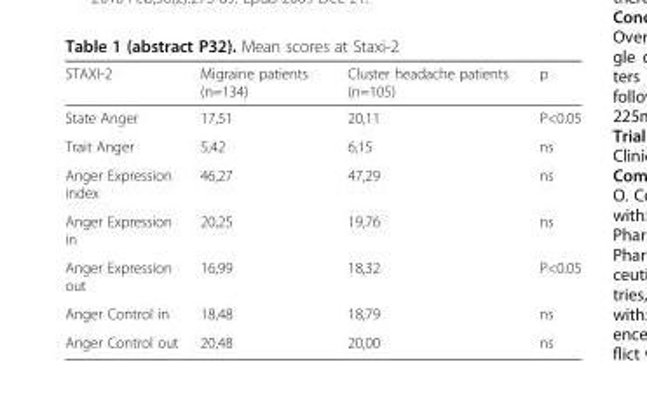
<table><thead><tr><td>STAXI-2</td><td>Migraine patients (n=134)</td><td>Cluster headache patients (n=105)</td><td>p</td></tr></thead><tbody><tr><td>State Anger</td><td>17,51</td><td>20,11</td><td>P&lt;0.05</td></tr><tr><td>Trait Anger</td><td>5,42</td><td>6,15</td><td>ns</td></tr><tr><td>Anger Expression index</td><td>46,27</td><td>47,29</td><td>ns</td></tr><tr><td>Anger Expression in</td><td>20,25</td><td>19,76</td><td>ns</td></tr><tr><td>Anger Expression out</td><td>16,99</td><td>18,32</td><td>P&lt;0.05</td></tr><tr><td>Anger Control in</td><td>18,48</td><td>18,79</td><td>ns</td></tr><tr><td>Anger Control out</td><td>20,48</td><td>20,00</td><td>ns</td></tr></tbody></table>